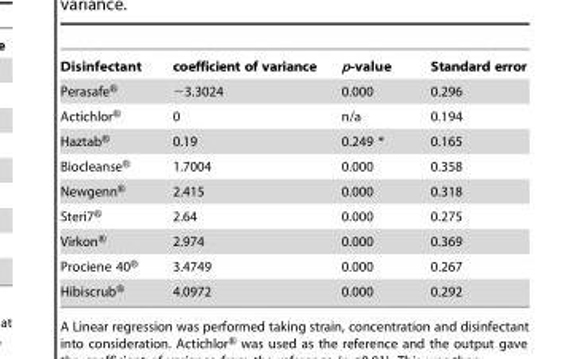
<table><thead><tr><td>Disinfectant</td><td>coefficient of variance</td><td>p-value</td><td>Standard error</td></tr></thead><tbody><tr><td>Perasafe®</td><td>−3.3024</td><td>0.000</td><td>0.296</td></tr><tr><td>Actichlor®</td><td>0</td><td>n/a</td><td>0.194</td></tr><tr><td>Haztab®</td><td>0.19</td><td>0.249 *</td><td>0.165</td></tr><tr><td>Biocleanse®</td><td>1.7004</td><td>0.000</td><td>0.358</td></tr><tr><td>Newgenn®</td><td>2.415</td><td>0.000</td><td>0.318</td></tr><tr><td>Steri7®</td><td>2.64</td><td>0.000</td><td>0.275</td></tr><tr><td>Virkon®</td><td>2.974</td><td>0.000</td><td>0.369</td></tr><tr><td>Prociene 40®</td><td>3.4749</td><td>0.000</td><td>0.267</td></tr><tr><td>Hibiscrub®</td><td>4.0972</td><td>0.000</td><td>0.292</td></tr></tbody></table>